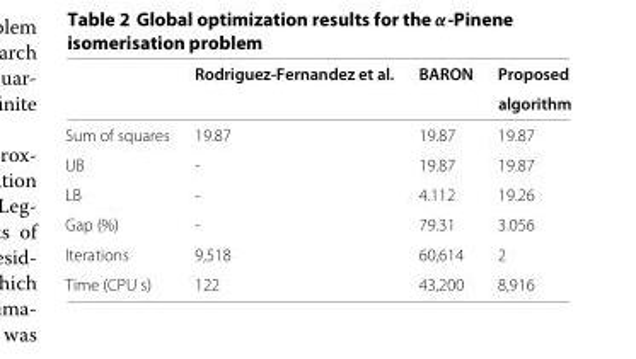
<table><thead><tr><td></td><td>Rodriguez-Fernandez et al.</td><td>BARON</td><td>Proposed algorithm</td></tr></thead><tbody><tr><td>Sum of squares</td><td>19.87</td><td>19.87</td><td>19.87</td></tr><tr><td>UB</td><td>-</td><td>19.87</td><td>19.87</td></tr><tr><td>LB</td><td>-</td><td>4.112</td><td>19.26</td></tr><tr><td>Gap (%)</td><td>-</td><td>79.31</td><td>3.056</td></tr><tr><td>Iterations</td><td>9,518</td><td>60,614</td><td>2</td></tr><tr><td>Time (CPU s)</td><td>122</td><td>43,200</td><td>8,916</td></tr></tbody></table>